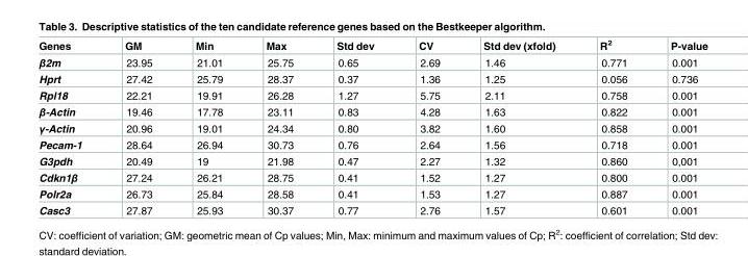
<table><thead><tr><td>Genes</td><td>GM</td><td>Min</td><td>Max</td><td>Std dev</td><td>CV</td><td>Std dev (xfold)</td><td>R<sup>2</sup></td><td>P-value</td></tr></thead><tbody><tr><td>β2m</td><td>23.95</td><td>21.01</td><td>25.75</td><td>0.65</td><td>2.69</td><td>1.46</td><td>0.771</td><td>0.001</td></tr><tr><td>Hprt</td><td>27.42</td><td>25.79</td><td>28.37</td><td>0.37</td><td>1.36</td><td>1.25</td><td>0.056</td><td>0.736</td></tr><tr><td>Rpl18</td><td>22.21</td><td>19.91</td><td>26.28</td><td>1.27</td><td>5.75</td><td>2.11</td><td>0.758</td><td>0.001</td></tr><tr><td>β-Actin</td><td>19.46</td><td>17.78</td><td>23.11</td><td>0.83</td><td>4.28</td><td>1.63</td><td>0.822</td><td>0.001</td></tr><tr><td>γ-Actin</td><td>20.96</td><td>19.01</td><td>24.34</td><td>0.80</td><td>3.82</td><td>1.60</td><td>0.858</td><td>0.001</td></tr><tr><td>Pecam-1</td><td>28.64</td><td>26.94</td><td>30.73</td><td>0.76</td><td>2.64</td><td>1.56</td><td>0.718</td><td>0.001</td></tr><tr><td>G3pdh</td><td>20.49</td><td>19</td><td>21.98</td><td>0.47</td><td>2.27</td><td>1.32</td><td>0.860</td><td>0,001</td></tr><tr><td>Cdkn1β</td><td>27.24</td><td>26.21</td><td>28.75</td><td>0.41</td><td>1.52</td><td>1.27</td><td>0.800</td><td>0.001</td></tr><tr><td>Polr2a</td><td>26.73</td><td>25.84</td><td>28.58</td><td>0.41</td><td>1.53</td><td>1.27</td><td>0.887</td><td>0.001</td></tr><tr><td>Casc3</td><td>27.87</td><td>25.93</td><td>30.37</td><td>0.77</td><td>2.76</td><td>1.57</td><td>0.601</td><td>0.001</td></tr></tbody></table>